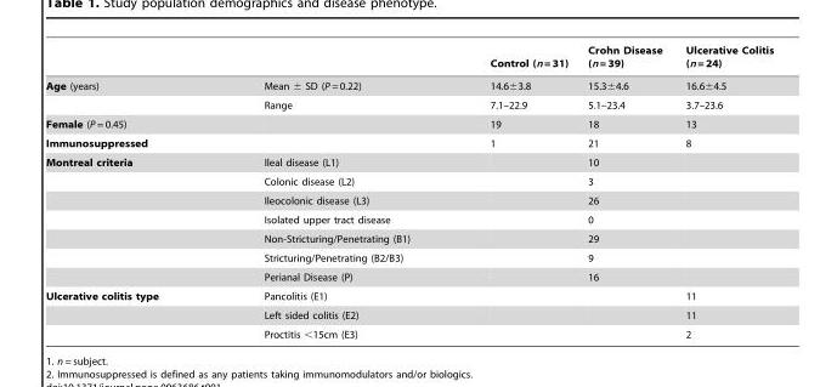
<table><thead><tr><td></td><td></td><td>Control (n = 31)</td><td>Crohn Disease (n = 39)</td><td>Ulcerative Colitis (n = 24)</td></tr></thead><tbody><tr><td rowspan="2">Age (years)</td><td>Mean ± SD (P = 0.22)</td><td>14.6±3.8</td><td>15.3±4.6</td><td>16.6±4.5</td></tr><tr><td>Range</td><td>7.1–22.9</td><td>5.1–23.4</td><td>3.7–23.6</td></tr><tr><td>Female (P = 0.45)</td><td></td><td>19</td><td>18</td><td>13</td></tr><tr><td>Immunosuppressed</td><td></td><td>1</td><td>21</td><td>8</td></tr><tr><td rowspan="7">Montreal criteria</td><td>Ileal disease (L1)</td><td></td><td>10</td><td></td></tr><tr><td>Colonic disease (L2)</td><td></td><td>3</td><td></td></tr><tr><td>Ileocolonic disease (L3)</td><td></td><td>26</td><td></td></tr><tr><td>Isolated upper tract disease</td><td></td><td>0</td><td></td></tr><tr><td>Non-Stricturing/Penetrating (B1)</td><td></td><td>29</td><td></td></tr><tr><td>Stricturing/Penetrating (B2/B3)</td><td></td><td>9</td><td></td></tr><tr><td>Perianal Disease (P)</td><td></td><td>16</td><td></td></tr><tr><td rowspan="3">Ulcerative colitis type</td><td>Pancolitis (E1)</td><td></td><td></td><td>11</td></tr><tr><td>Left sided colitis (E2)</td><td></td><td></td><td>11</td></tr><tr><td>Proctitis &lt;15cm (E3)</td><td></td><td></td><td>2</td></tr></tbody></table>